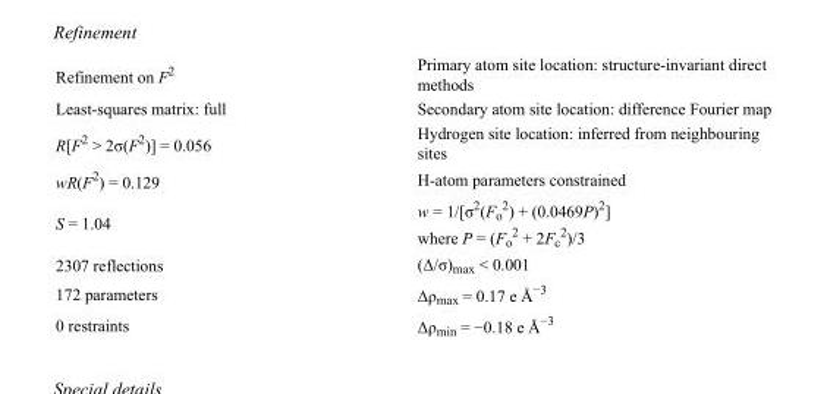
<table><tbody><tr><td>Refinement on F<sup>2</sup></td><td>Primary atom site location: structure-invariant direct methods</td></tr><tr><td>Least-squares matrix: full</td><td>Secondary atom site location: difference Fourier map</td></tr><tr><td>R[F<sup>2</sup> &gt; 2σ(F<sup>2</sup>)] = 0.056</td><td>Hydrogen site location: inferred from neighbouring sites</td></tr><tr><td>wR(F<sup>2</sup>) = 0.129</td><td>H-atom parameters constrained</td></tr><tr><td>S = 1.04</td><td>w = 1/[σ<sup>2</sup>(F<sub>o</sub> <sup>2</sup>) + (0.0469P)<sup>2</sup>] where P = (F<sub>o</sub> <sup>2</sup> + 2F<sub>c</sub> <sup>2</sup>)/3</td></tr><tr><td>2307 reflections</td><td>(Δ/σ)<sub>max</sub> &lt; 0.001</td></tr><tr><td>172 parameters</td><td>Δρ<sub>max</sub> = 0.17 e Å<sup>−3</sup></td></tr><tr><td>0 restraints</td><td>Δρ<sub>min</sub> = −0.18 e Å<sup>−3</sup></td></tr></tbody></table>